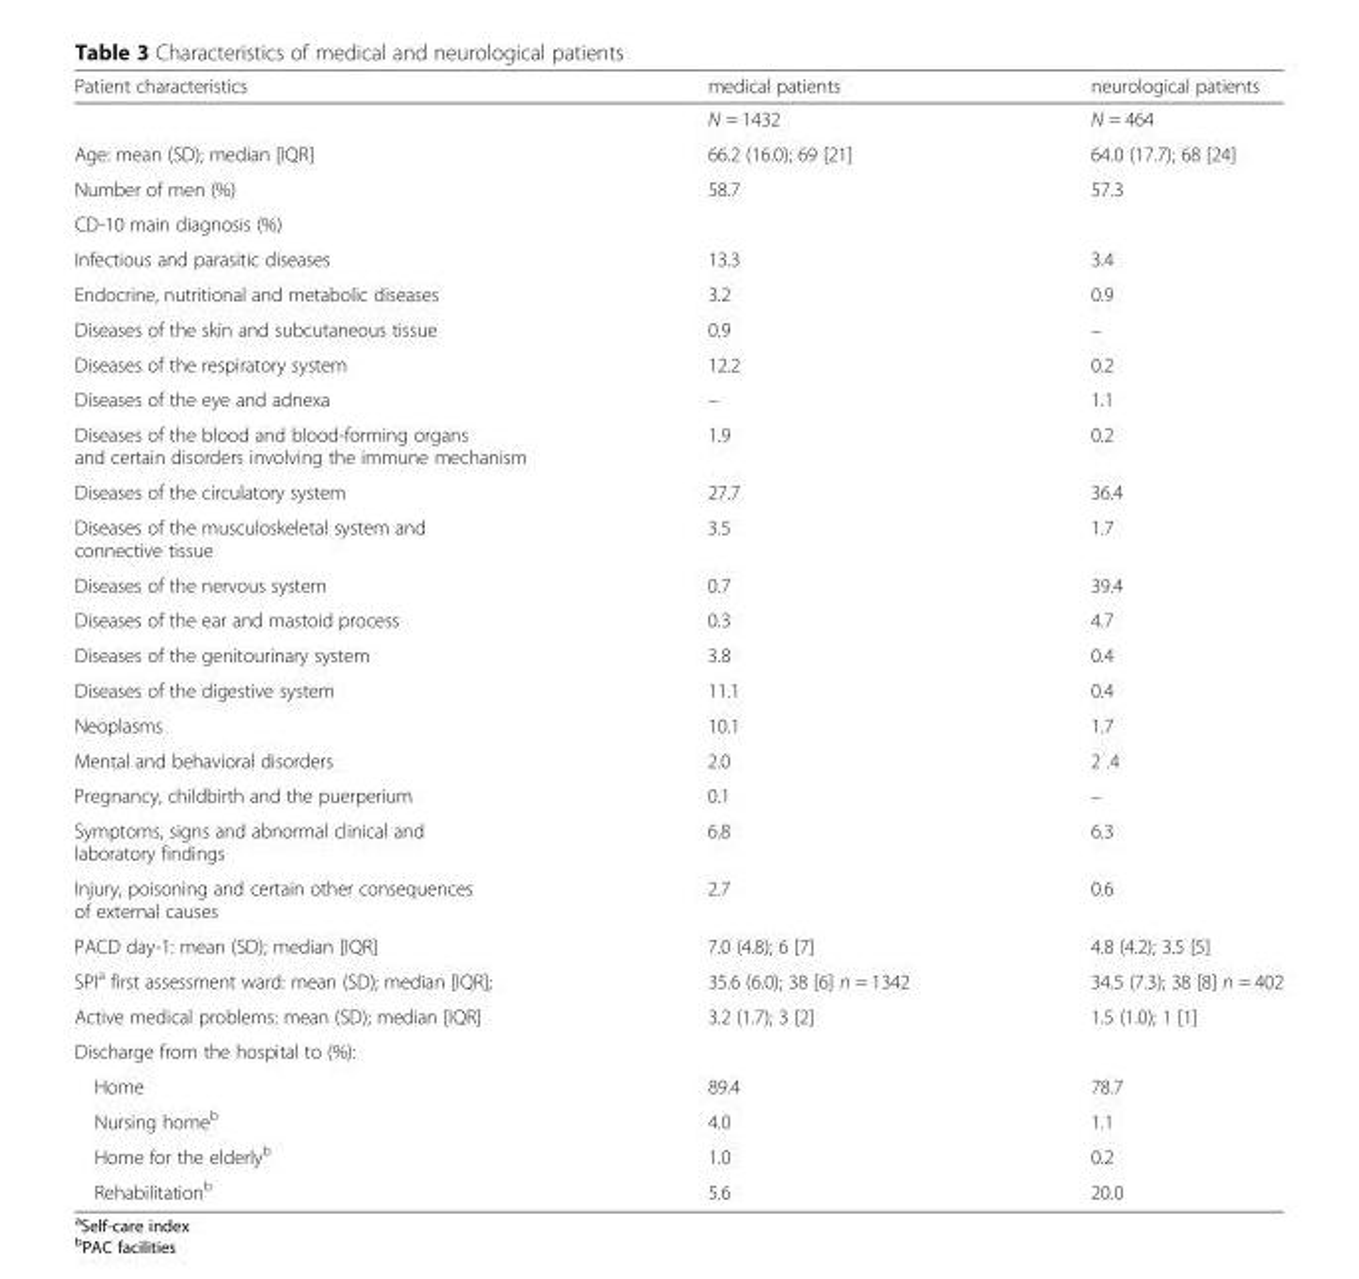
<table><thead><tr><td>Patient characteristics</td><td>medical patients</td><td>neurological patients</td></tr></thead><tbody><tr><td></td><td>N = 1432</td><td>N = 464</td></tr><tr><td>Age: mean (SD); median [IQR]</td><td>66.2 (16.0); 69 [21]</td><td>64.0 (17.7); 68 [24]</td></tr><tr><td>Number of men (%)</td><td>58.7</td><td>57.3</td></tr><tr><td colspan="3">CD-10 main diagnosis (%)</td></tr><tr><td>Infectious and parasitic diseases</td><td>13.3</td><td>3.4</td></tr><tr><td>Endocrine, nutritional and metabolic diseases</td><td>3.2</td><td>0.9</td></tr><tr><td>Diseases of the skin and subcutaneous tissue</td><td>0.9</td><td>–</td></tr><tr><td>Diseases of the respiratory system</td><td>12.2</td><td>0.2</td></tr><tr><td>Diseases of the eye and adnexa</td><td>–</td><td>1.1</td></tr><tr><td>Diseases of the blood and blood-forming organs and certain disorders involving the immune mechanism</td><td>1.9</td><td>0.2</td></tr><tr><td>Diseases of the circulatory system</td><td>27.7</td><td>36.4</td></tr><tr><td>Diseases of the musculoskeletal system and connective tissue</td><td>3.5</td><td>1.7</td></tr><tr><td>Diseases of the nervous system</td><td>0.7</td><td>39.4</td></tr><tr><td>Diseases of the ear and mastoid process</td><td>0.3</td><td>4.7</td></tr><tr><td>Diseases of the genitourinary system</td><td>3.8</td><td>0.4</td></tr><tr><td>Diseases of the digestive system</td><td>11.1</td><td>0.4</td></tr><tr><td>Neoplasms</td><td>10.1</td><td>1.7</td></tr><tr><td>Mental and behavioral disorders</td><td>2.0</td><td>2 .4</td></tr><tr><td>Pregnancy, childbirth and the puerperium</td><td>0.1</td><td>–</td></tr><tr><td>Symptoms, signs and abnormal clinical and laboratory findings</td><td>6.8</td><td>6.3</td></tr><tr><td>Injury, poisoning and certain other consequences of external causes</td><td>2.7</td><td>0.6</td></tr><tr><td>PACD day-1: mean (SD); median [IQR]</td><td>7.0 (4.8); 6 [7]</td><td>4.8 (4.2); 3.5 [5]</td></tr><tr><td>SPI<sup>a</sup> first assessment ward: mean (SD); median [IQR];</td><td>35.6 (6.0); 38 [6] n = 1342</td><td>34.5 (7.3); 38 [8] n = 402</td></tr><tr><td>Active medical problems: mean (SD); median [IQR]</td><td>3.2 (1.7); 3 [2]</td><td>1.5 (1.0); 1 [1]</td></tr><tr><td colspan="3">Discharge from the hospital to (%):</td></tr><tr><td>Home</td><td>89.4</td><td>78.7</td></tr><tr><td>Nursing home<sup>b</sup></td><td>4.0</td><td>1.1</td></tr><tr><td>Home for the elderly<sup>b</sup></td><td>1.0</td><td>0.2</td></tr><tr><td>Rehabilitation<sup>b</sup></td><td>5.6</td><td>20.0</td></tr></tbody></table>